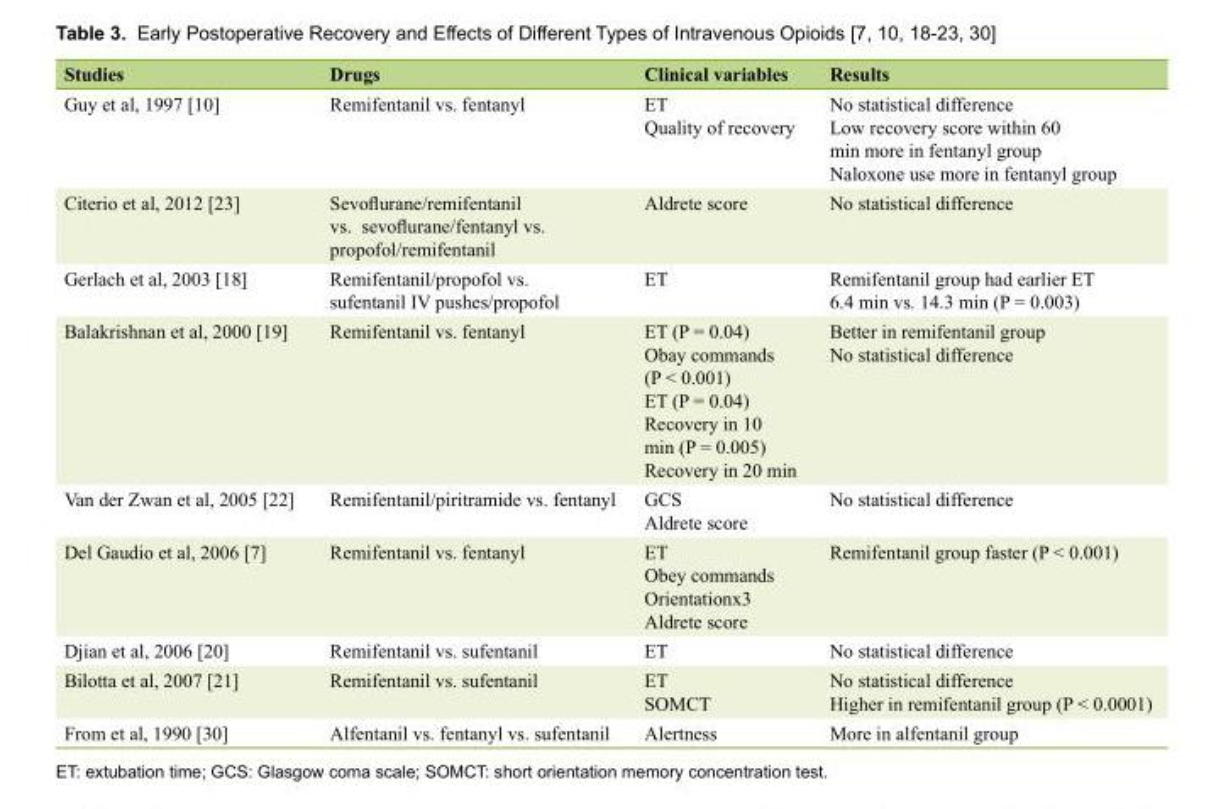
<table><thead><tr><td>Studies</td><td>Drugs</td><td>Clinical variables</td><td>Results</td></tr></thead><tbody><tr><td>Guy et al, 1997 [10]</td><td>Remifentanil vs. fentanyl</td><td>ET Quality of recovery</td><td>No statistical difference Low recovery score within 60 min more in fentanyl group Naloxone use more in fentanyl group</td></tr><tr><td>Citerio et al, 2012 [23]</td><td>Sevoflurane/remifentanil vs. sevoflurane/fentanyl vs. propofol/remifentanil</td><td>Aldrete score</td><td>No statistical difference</td></tr><tr><td>Gerlach et al, 2003 [18]</td><td>Remifentanil/propofol vs. sufentanil IV pushes/propofol</td><td>ET</td><td>Remifentanil group had earlier ET 6.4 min vs. 14.3 min (P = 0.003)</td></tr><tr><td>Balakrishnan et al, 2000 [19]</td><td>Remifentanil vs. fentanyl</td><td>ET (P = 0.04) Obay commands (P &lt; 0.001) ET (P = 0.04) Recovery in 10 min (P = 0.005) Recovery in 20 min</td><td>Better in remifentanil group No statistical difference</td></tr><tr><td>Van der Zwan et al, 2005 [22]</td><td>Remifentanil/piritramide vs. fentanyl</td><td>GCS Aldrete score</td><td>No statistical difference</td></tr><tr><td>Del Gaudio et al, 2006 [7]</td><td>Remifentanil vs. fentanyl</td><td>ET Obey commands Orientationx3 Aldrete score</td><td>Remifentanil group faster (P &lt; 0.001)</td></tr><tr><td>Djian et al, 2006 [20]</td><td>Remifentanil vs. sufentanil</td><td>ET</td><td>No statistical difference</td></tr><tr><td>Bilotta et al, 2007 [21]</td><td>Remifentanil vs. sufentanil</td><td>ET SOMCT</td><td>No statistical difference Higher in remifentanil group (P &lt; 0.0001)</td></tr><tr><td>From et al, 1990 [30]</td><td>Alfentanil vs. fentanyl vs. sufentanil</td><td>Alertness</td><td>More in alfentanil group</td></tr></tbody></table>